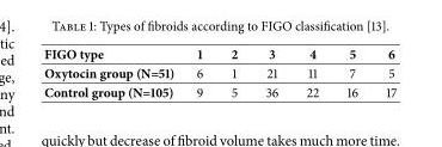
<table><tbody><tr><td>FIGO type</td><td>1</td><td>2</td><td>3</td><td>4</td><td>5</td><td>6</td></tr><tr><td>Oxytocin group (N=51)</td><td>6</td><td>1</td><td>21</td><td>11</td><td>7</td><td>5</td></tr><tr><td>Control group (N=105)</td><td>9</td><td>5</td><td>36</td><td>22</td><td>16</td><td>17</td></tr></tbody></table>